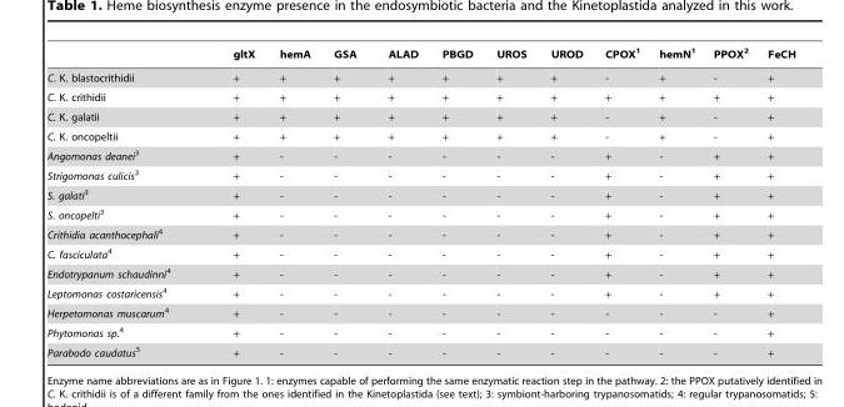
<table><thead><tr><td></td><td>gltX</td><td>hemA</td><td>GSA</td><td>ALAD</td><td>PBGD</td><td>UROS</td><td>UROD</td><td>CPOX<sup>1</sup></td><td>hemN<sup>1</sup></td><td>PPOX<sup>2</sup></td><td>FeCH</td></tr></thead><tbody><tr><td>C. K. blastocrithidii</td><td>+</td><td>+</td><td>+</td><td>+</td><td>+</td><td>+</td><td>+</td><td>-</td><td>+</td><td>-</td><td>+</td></tr><tr><td>C. K. crithidii</td><td>+</td><td>+</td><td>+</td><td>+</td><td>+</td><td>+</td><td>+</td><td>+</td><td>+</td><td>+</td><td>+</td></tr><tr><td>C. K. galatii</td><td>+</td><td>+</td><td>+</td><td>+</td><td>+</td><td>+</td><td>+</td><td>-</td><td>+</td><td>-</td><td>+</td></tr><tr><td>C. K. oncopeltii</td><td>+</td><td>+</td><td>+</td><td>+</td><td>+</td><td>+</td><td>+</td><td>-</td><td>+</td><td>-</td><td>+</td></tr><tr><td>Angomonas deanei3</td><td>+</td><td>-</td><td>-</td><td>-</td><td>-</td><td>-</td><td>-</td><td>+</td><td>-</td><td>+</td><td>+</td></tr><tr><td>Strigomonas culicis3</td><td>+</td><td>-</td><td>-</td><td>-</td><td>-</td><td>-</td><td>-</td><td>+</td><td>-</td><td>+</td><td>+</td></tr><tr><td>S. galati3</td><td>+</td><td>-</td><td>-</td><td>-</td><td>-</td><td>-</td><td>-</td><td>+</td><td>-</td><td>+</td><td>+</td></tr><tr><td>S. oncopelti3</td><td>+</td><td>-</td><td>-</td><td>-</td><td>-</td><td>-</td><td>-</td><td>+</td><td>-</td><td>+</td><td>+</td></tr><tr><td>Crithidia acanthocephali4</td><td>+</td><td>-</td><td>-</td><td>-</td><td>-</td><td>-</td><td>-</td><td>+</td><td>-</td><td>+</td><td>+</td></tr><tr><td>C. fasciculata4</td><td>+</td><td>-</td><td>-</td><td>-</td><td>-</td><td>-</td><td>-</td><td>+</td><td>-</td><td>+</td><td>+</td></tr><tr><td>Endotrypanum schaudinni4</td><td>+</td><td>-</td><td>-</td><td>-</td><td>-</td><td>-</td><td>-</td><td>+</td><td>-</td><td>+</td><td>+</td></tr><tr><td>Leptomonas costaricensis4</td><td>+</td><td>-</td><td>-</td><td>-</td><td>-</td><td>-</td><td>-</td><td>+</td><td>-</td><td>+</td><td>+</td></tr><tr><td>Herpetomonas muscarum4</td><td>+</td><td>-</td><td>-</td><td>-</td><td>-</td><td>-</td><td>-</td><td>-</td><td>-</td><td>-</td><td>+</td></tr><tr><td>Phytomonas sp.4</td><td>+</td><td>-</td><td>-</td><td>-</td><td>-</td><td>-</td><td>-</td><td>-</td><td>-</td><td>-</td><td>+</td></tr><tr><td>Parabodo caudatus5</td><td>+</td><td>-</td><td>-</td><td>-</td><td>-</td><td>-</td><td>-</td><td>-</td><td>-</td><td>-</td><td>+</td></tr></tbody></table>